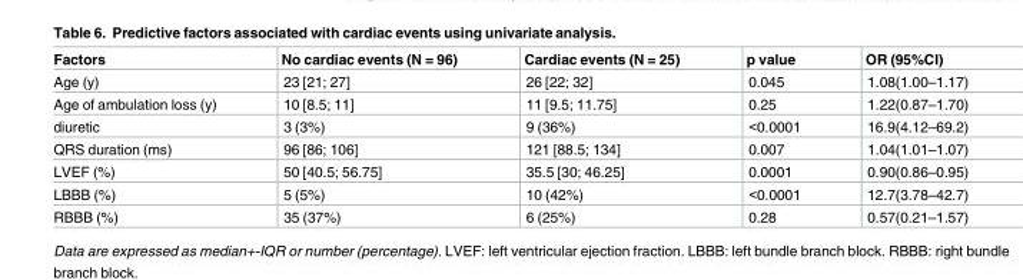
<table><thead><tr><td>Factors</td><td>No cardiac events (N = 96)</td><td>Cardiac events (N = 25)</td><td>p value</td><td>OR (95%CI)</td></tr></thead><tbody><tr><td>Age (y)</td><td>23 [21; 27]</td><td>26 [22; 32]</td><td>0.045</td><td>1.08(1.00–1.17)</td></tr><tr><td>Age of ambulation loss (y)</td><td>10 [8.5; 11]</td><td>11 [9.5; 11.75]</td><td>0.25</td><td>1.22(0.87–1.70)</td></tr><tr><td>diuretic</td><td>3 (3%)</td><td>9 (36%)</td><td>&lt;0.0001</td><td>16.9(4.12–69.2)</td></tr><tr><td>QRS duration (ms)</td><td>96 [86; 106]</td><td>121 [88.5; 134]</td><td>0.007</td><td>1.04(1.01–1.07)</td></tr><tr><td>LVEF (%)</td><td>50 [40.5; 56.75]</td><td>35.5 [30; 46.25]</td><td>0.0001</td><td>0.90(0.86–0.95)</td></tr><tr><td>LBBB (%)</td><td>5 (5%)</td><td>10 (42%)</td><td>&lt;0.0001</td><td>12.7(3.78–42.7)</td></tr><tr><td>RBBB (%)</td><td>35 (37%)</td><td>6 (25%)</td><td>0.28</td><td>0.57(0.21–1.57)</td></tr></tbody></table>